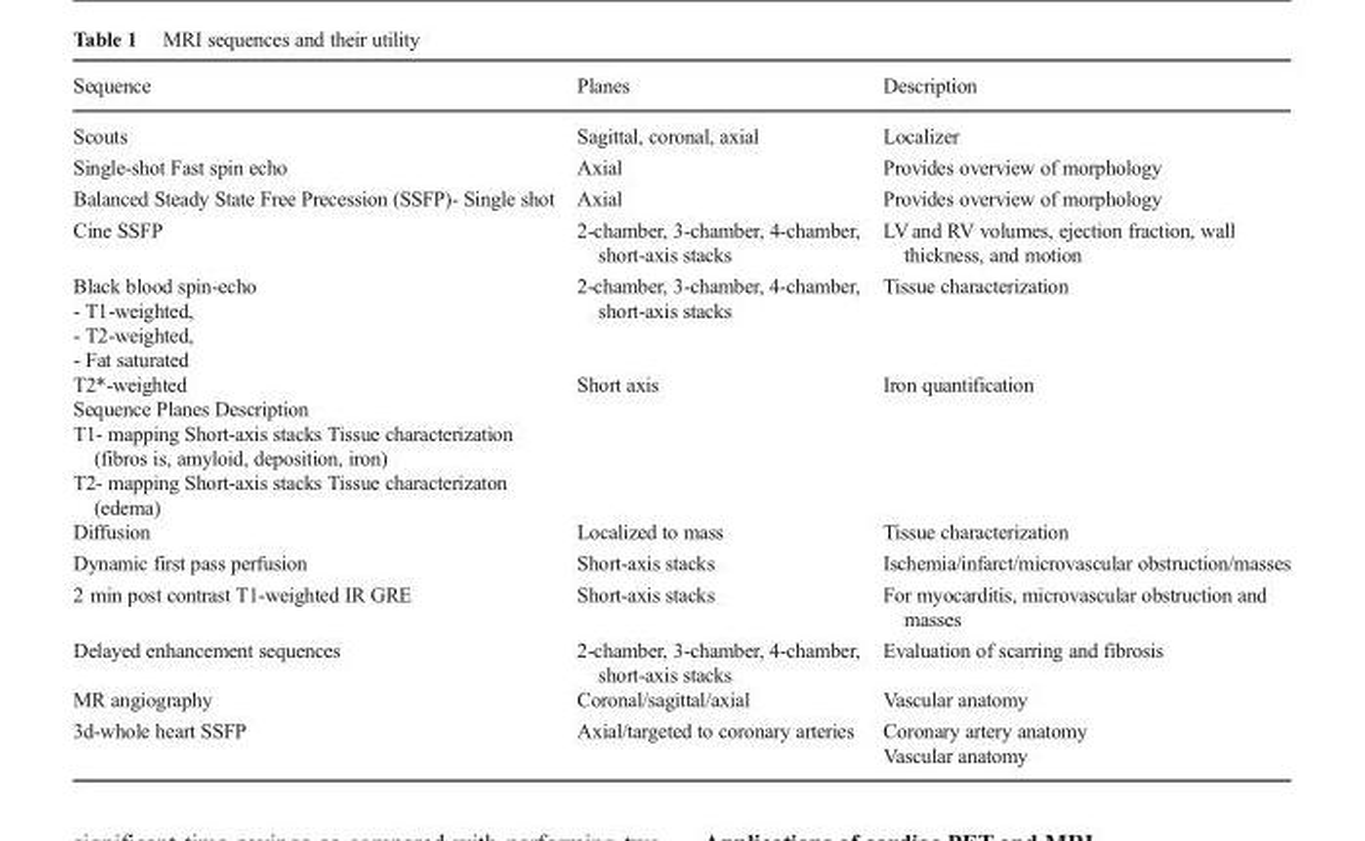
<table><thead><tr><td>Sequence</td><td>Planes</td><td>Description</td></tr></thead><tbody><tr><td>Scouts</td><td>Sagittal, coronal, axial</td><td>Localizer</td></tr><tr><td>Single-shot Fast spin echo</td><td>Axial</td><td>Provides overview of morphology</td></tr><tr><td>Balanced Steady State Free Precession (SSFP)- Single shot</td><td>Axial</td><td>Provides overview of morphology</td></tr><tr><td>Cine SSFP</td><td>2-chamber, 3-chamber, 4-chamber, short-axis stacks</td><td>LV and RV volumes, ejection fraction, wall thickness, and motion</td></tr><tr><td>Black blood spin-echo - T1-weighted, - T2-weighted, - Fat saturated</td><td>2-chamber, 3-chamber, 4-chamber, short-axis stacks</td><td>Tissue characterization</td></tr><tr><td>T2*-weighted Sequence Planes Description T1- mapping Short-axis stacks Tissue characterization (fibros is, amyloid, deposition, iron) T2- mapping Short-axis stacks Tissue characterizaton (edema)</td><td>Short axis</td><td>Iron quantification</td></tr><tr><td>Diffusion</td><td>Localized to mass</td><td>Tissue characterization</td></tr><tr><td>Dynamic first pass perfusion</td><td>Short-axis stacks</td><td>Ischemia/infarct/microvascular obstruction/masses</td></tr><tr><td>2 min post contrast T1-weighted IR GRE</td><td>Short-axis stacks</td><td>For myocarditis, microvascular obstruction and masses</td></tr><tr><td>Delayed enhancement sequences</td><td>2-chamber, 3-chamber, 4-chamber, short-axis stacks</td><td>Evaluation of scarring and fibrosis</td></tr><tr><td>MR angiography</td><td>Coronal/sagittal/axial</td><td>Vascular anatomy</td></tr><tr><td>3d-whole heart SSFP</td><td>Axial/targeted to coronary arteries</td><td>Coronary artery anatomy Vascular anatomy</td></tr></tbody></table>